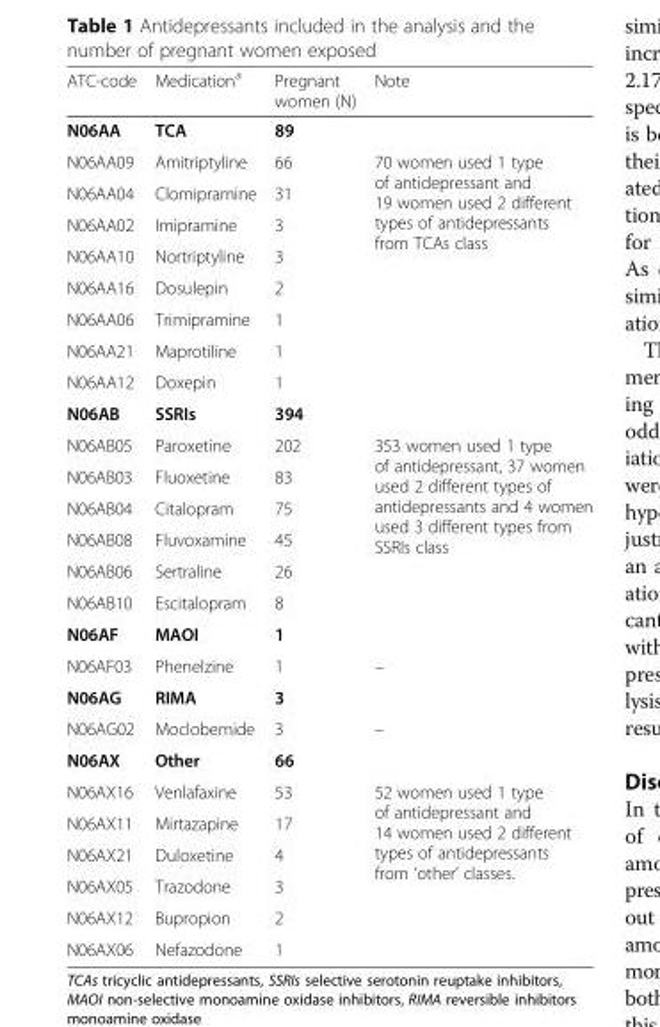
<table><thead><tr><td>ATC-code</td><td>Medication<sup>a</sup></td><td>Pregnant women (N)</td><td>Note</td></tr></thead><tbody><tr><td>N06AA</td><td>TCA</td><td>89</td><td></td></tr><tr><td>N06AA09</td><td>Amitriptyline</td><td>66</td><td rowspan="8">70 women used 1 type of antidepressant and 19 women used 2 different types of antidepressants from TCAs class</td></tr><tr><td>N06AA04</td><td>Clomipramine</td><td>31</td></tr><tr><td>N06AA02</td><td>Imipramine</td><td>3</td></tr><tr><td>N06AA10</td><td>Nortriptyline</td><td>3</td></tr><tr><td>N06AA16</td><td>Dosulepin</td><td>2</td></tr><tr><td>N06AA06</td><td>Trimipramine</td><td>1</td></tr><tr><td>N06AA21</td><td>Maprotiline</td><td>1</td></tr><tr><td>N06AA12</td><td>Doxepin</td><td>1</td></tr><tr><td>N06AB</td><td>SSRIs</td><td>394</td><td></td></tr><tr><td>N06AB05</td><td>Paroxetine</td><td>202</td><td rowspan="6">353 women used 1 type of antidepressant, 37 women used 2 different types of antidepressants and 4 women used 3 different types from SSRIs class</td></tr><tr><td>N06AB03</td><td>Fluoxetine</td><td>83</td></tr><tr><td>N06AB04</td><td>Citalopram</td><td>75</td></tr><tr><td>N06AB08</td><td>Fluvoxamine</td><td>45</td></tr><tr><td>N06AB06</td><td>Sertraline</td><td>26</td></tr><tr><td>N06AB10</td><td>Escitalopram</td><td>8</td></tr><tr><td>N06AF</td><td>MAOI</td><td>1</td><td></td></tr><tr><td>N06AF03</td><td>Phenelzine</td><td>1</td><td>–</td></tr><tr><td>N06AG</td><td>RIMA</td><td>3</td><td></td></tr><tr><td>N06AG02</td><td>Moclobemide</td><td>3</td><td>–</td></tr><tr><td>N06AX</td><td>Other</td><td>66</td><td></td></tr><tr><td>N06AX16</td><td>Venlafaxine</td><td>53</td><td rowspan="6">52 women used 1 type of antidepressant and 14 women used 2 different types of antidepressants from ‘other’ classes.</td></tr><tr><td>N06AX11</td><td>Mirtazapine</td><td>17</td></tr><tr><td>N06AX21</td><td>Duloxetine</td><td>4</td></tr><tr><td>N06AX05</td><td>Trazodone</td><td>3</td></tr><tr><td>N06AX12</td><td>Bupropion</td><td>2</td></tr><tr><td>N06AX06</td><td>Nefazodone</td><td>1</td></tr></tbody></table>